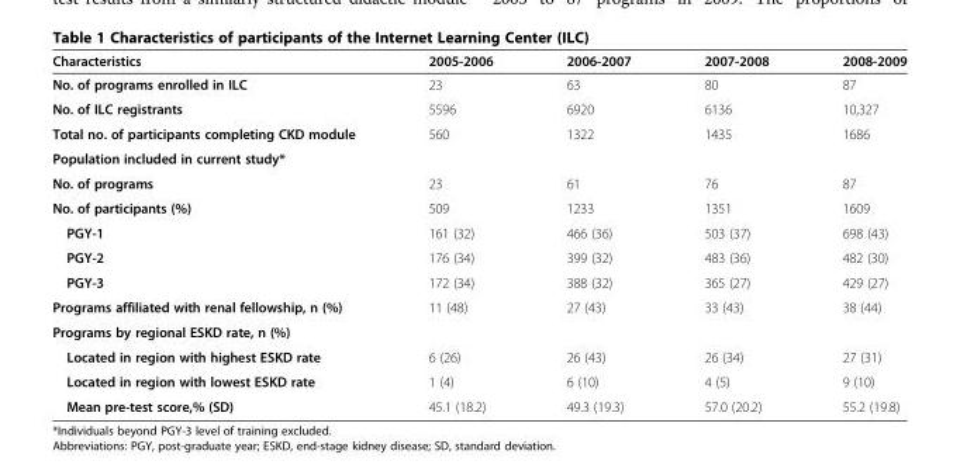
<table><thead><tr><td>Characteristics</td><td>2005-2006</td><td>2006-2007</td><td>2007-2008</td><td>2008-2009</td></tr></thead><tbody><tr><td>No. of programs enrolled in ILC</td><td>23</td><td>63</td><td>80</td><td>87</td></tr><tr><td>No. of ILC registrants</td><td>5596</td><td>6920</td><td>6136</td><td>10,327</td></tr><tr><td>Total no. of participants completing CKD module</td><td>560</td><td>1322</td><td>1435</td><td>1686</td></tr><tr><td colspan="5">Population included in current study*</td></tr><tr><td>No. of programs</td><td>23</td><td>61</td><td>76</td><td>87</td></tr><tr><td>No. of participants (%)</td><td>509</td><td>1233</td><td>1351</td><td>1609</td></tr><tr><td>PGY-1</td><td>161 (32)</td><td>466 (36)</td><td>503 (37)</td><td>698 (43)</td></tr><tr><td>PGY-2</td><td>176 (34)</td><td>399 (32)</td><td>483 (36)</td><td>482 (30)</td></tr><tr><td>PGY-3</td><td>172 (34)</td><td>388 (32)</td><td>365 (27)</td><td>429 (27)</td></tr><tr><td>Programs affiliated with renal fellowship, n (%)</td><td>11 (48)</td><td>27 (43)</td><td>33 (43)</td><td>38 (44)</td></tr><tr><td colspan="5">Programs by regional ESKD rate, n (%)</td></tr><tr><td>Located in region with highest ESKD rate</td><td>6 (26)</td><td>26 (43)</td><td>26 (34)</td><td>27 (31)</td></tr><tr><td>Located in region with lowest ESKD rate</td><td>1 (4)</td><td>6 (10)</td><td>4 (5)</td><td>9 (10)</td></tr><tr><td>Mean pre-test score,% (SD)</td><td>45.1 (18.2)</td><td>49.3 (19.3)</td><td>57.0 (20.2)</td><td>55.2 (19.8)</td></tr></tbody></table>